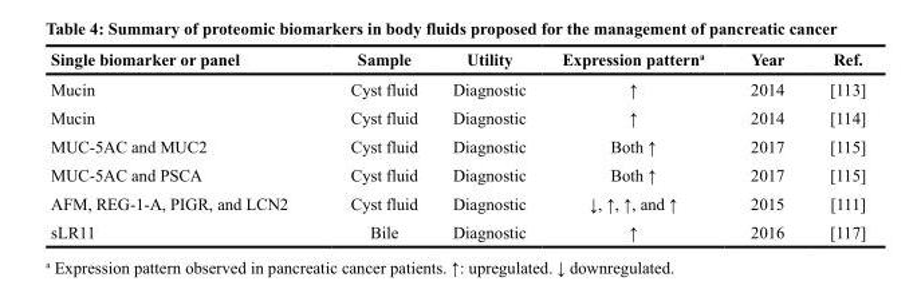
<table><thead><tr><td>Single biomarker or panel</td><td>Sample</td><td>Utility</td><td>Expression pattern<sup>a</sup></td><td>Year</td><td>Ref.</td></tr></thead><tbody><tr><td>Mucin</td><td>Cyst fluid</td><td>Diagnostic</td><td>↑</td><td>2014</td><td>[113]</td></tr><tr><td>Mucin</td><td>Cyst fluid</td><td>Diagnostic</td><td>↑</td><td>2014</td><td>[114]</td></tr><tr><td>MUC-5AC and MUC2</td><td>Cyst fluid</td><td>Diagnostic</td><td>Both ↑</td><td>2017</td><td>[115]</td></tr><tr><td>MUC-5AC and PSCA</td><td>Cyst fluid</td><td>Diagnostic</td><td>Both ↑</td><td>2017</td><td>[115]</td></tr><tr><td>AFM, REG-1-A, PIGR, and LCN2</td><td>Cyst fluid</td><td>Diagnostic</td><td>↓, ↑, ↑, and ↑</td><td>2015</td><td>[111]</td></tr><tr><td>sLR11</td><td>Bile</td><td>Diagnostic</td><td>↑</td><td>2016</td><td>[117]</td></tr></tbody></table>